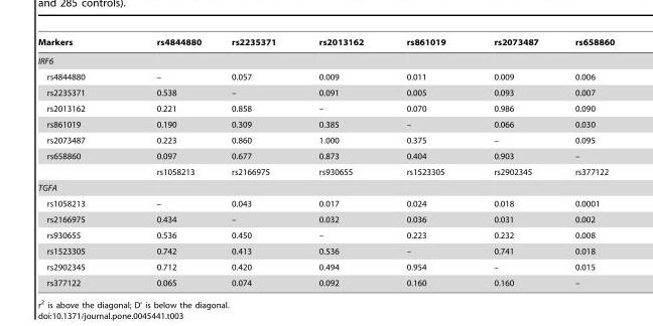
<table><thead><tr><td>Markers</td><td>rs4844880</td><td>rs2235371</td><td>rs2013162</td><td>rs861019</td><td>rs2073487</td><td>rs658860</td></tr></thead><tbody><tr><td colspan="7">IRF6</td></tr><tr><td>rs4844880</td><td>–</td><td>0.057</td><td>0.009</td><td>0.011</td><td>0.009</td><td>0.006</td></tr><tr><td>rs2235371</td><td>0.538</td><td>–</td><td>0.091</td><td>0.005</td><td>0.093</td><td>0.007</td></tr><tr><td>rs2013162</td><td>0.221</td><td>0.858</td><td>–</td><td>0.070</td><td>0.986</td><td>0.090</td></tr><tr><td>rs861019</td><td>0.190</td><td>0.309</td><td>0.385</td><td>–</td><td>0.066</td><td>0.030</td></tr><tr><td>rs2073487</td><td>0.223</td><td>0.860</td><td>1.000</td><td>0.375</td><td>–</td><td>0.095</td></tr><tr><td rowspan="2">rs658860</td><td>0.097</td><td>0.677</td><td>0.873</td><td>0.404</td><td>0.903</td><td>–</td></tr><tr><td>rs1058213</td><td>rs2166975</td><td>rs930655</td><td>rs1523305</td><td>rs2902345</td><td>rs377122</td></tr><tr><td colspan="7">TGFA</td></tr><tr><td>rs1058213</td><td>–</td><td>0.043</td><td>0.017</td><td>0.024</td><td>0.018</td><td>0.0001</td></tr><tr><td>rs2166975</td><td>0.434</td><td>–</td><td>0.032</td><td>0.036</td><td>0.031</td><td>0.002</td></tr><tr><td>rs930655</td><td>0.536</td><td>0.450</td><td>–</td><td>0.223</td><td>0.232</td><td>0.008</td></tr><tr><td>rs1523305</td><td>0.742</td><td>0.413</td><td>0.536</td><td>–</td><td>0.741</td><td>0.018</td></tr><tr><td>rs2902345</td><td>0.712</td><td>0.420</td><td>0.494</td><td>0.954</td><td>–</td><td>0.015</td></tr><tr><td>rs377122</td><td>0.065</td><td>0.074</td><td>0.092</td><td>0.160</td><td>0.160</td><td>–</td></tr></tbody></table>